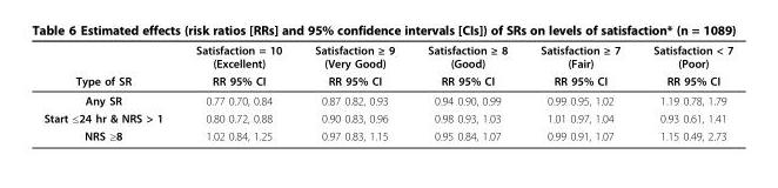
<table><thead><tr><td rowspan="2">Type of SR</td><td rowspan="2">Satisfaction = 10 (Excellent) RR 95% CI</td><td rowspan="2">Satisfaction ≥ 9 (Very Good) RR 95% CI</td><td rowspan="2">Satisfaction ≥ 8 (Good) RR 95% CI</td><td rowspan="2">Satisfaction ≥ 7 (Fair) RR 95% CI</td><td rowspan="2">Satisfaction &lt; 7 (Poor) RR 95% CI</td></tr><tr></tr></thead><tbody><tr><td>Any SR</td><td>0.77 0.70, 0.84</td><td>0.87 0.82, 0.93</td><td>0.94 0.90, 0.99</td><td>0.99 0.95, 1.02</td><td>1.19 0.78, 1.79</td></tr><tr><td>Start ≤24 hr &amp; NRS &gt; 1</td><td>0.80 0.72, 0.88</td><td>0.90 0.83, 0.96</td><td>0.98 0.93, 1.03</td><td>1.01 0.97, 1.04</td><td>0.93 0.61, 1.41</td></tr><tr><td>NRS ≥8</td><td>1.02 0.84, 1.25</td><td>0.97 0.83, 1.15</td><td>0.95 0.84, 1.07</td><td>0.99 0.91, 1.07</td><td>1.15 0.49, 2.73</td></tr></tbody></table>